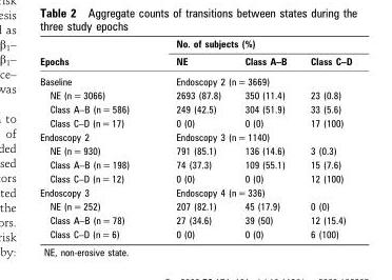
<table><thead><tr><td rowspan="2">Epochs</td><td colspan="3">No. of subjects (%)</td></tr><tr><td>NE</td><td>Class A–B</td><td>Class C–D</td></tr></thead><tbody><tr><td>Baseline</td><td colspan="3">Endoscopy 2 (n = 3669)</td></tr><tr><td>NE (n = 3066)</td><td>2693 (87.8)</td><td>350 (11.4)</td><td>23 (0.8)</td></tr><tr><td>Class A–B (n = 586)</td><td>249 (42.5)</td><td>304 (51.9)</td><td>33 (5.6)</td></tr><tr><td>Class C–D (n = 17)</td><td>0 (0)</td><td>0 (0)</td><td>17 (100)</td></tr><tr><td>Endoscopy 2</td><td colspan="3">Endoscopy 3 (n = 1140)</td></tr><tr><td>NE (n = 930)</td><td>791 (85.1)</td><td>136 (14.6)</td><td>3 (0.3)</td></tr><tr><td>Class A–B (n = 198)</td><td>74 (37.3)</td><td>109 (55.1)</td><td>15 (7.6)</td></tr><tr><td>Class C–D (n = 12)</td><td>0 (0)</td><td>0 (0)</td><td>12 (100)</td></tr><tr><td>Endoscopy 3</td><td colspan="3">Endoscopy 4 (n = 336)</td></tr><tr><td>NE (n = 252)</td><td>207 (82.1)</td><td>45 (17.9)</td><td>0 (0)</td></tr><tr><td>Class A–B (n = 78)</td><td>27 (34.6)</td><td>39 (50)</td><td>12 (15.4)</td></tr><tr><td>Class C–D (n = 6)</td><td>0 (0)</td><td>0 (0)</td><td>6 (100)</td></tr></tbody></table>